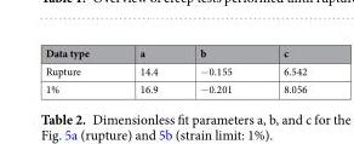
<table><thead><tr><td>Data type</td><td>a</td><td>b</td><td>c</td></tr></thead><tbody><tr><td>Rupture</td><td>14.4</td><td>−0.155</td><td>6.542</td></tr><tr><td>1%</td><td>16.9</td><td>−0.201</td><td>8.056</td></tr></tbody></table>